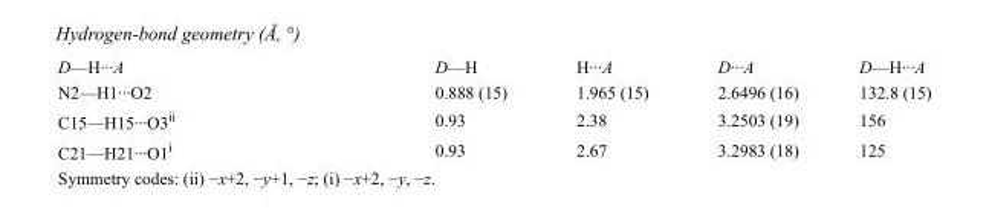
<table><tbody><tr><td>D—H···A</td><td>D—H</td><td>H···A</td><td>D···A</td><td>D—H···A</td></tr><tr><td>N2—H1···O2</td><td>0.888 (15)</td><td>1.965 (15)</td><td>2.6496 (16)</td><td>132.8 (15)</td></tr><tr><td>C15—H15···O3<sup>ii</sup></td><td>0.93</td><td>2.38</td><td>3.2503 (19)</td><td>156</td></tr><tr><td>C21—H21···O1<sup>i</sup></td><td>0.93</td><td>2.67</td><td>3.2983 (18)</td><td>125</td></tr></tbody></table>